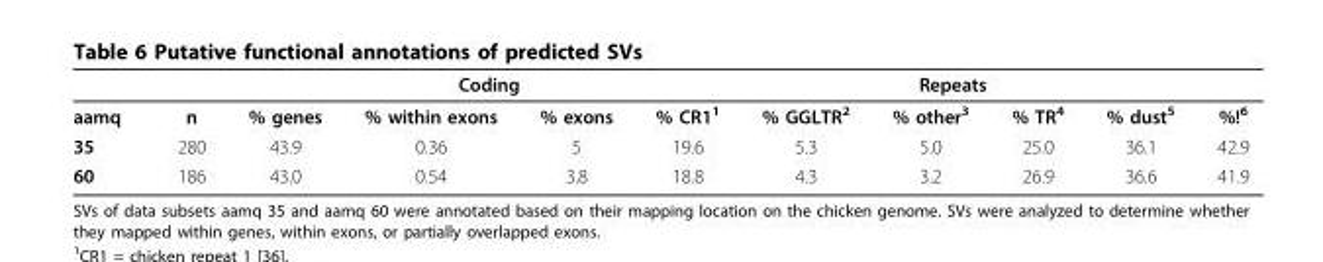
<table><thead><tr><td rowspan="2">aamq</td><td rowspan="2">n</td><td rowspan="2">% genes</td><td colspan="2">Coding</td><td colspan="6">Repeats</td></tr><tr><td>% within exons</td><td>% exons</td><td>% CR1<sup>1</sup></td><td>% GGLTR<sup>2</sup></td><td>% other<sup>3</sup></td><td>% TR<sup>4</sup></td><td>% dust<sup>5</sup></td><td>%!<sup>6</sup></td></tr></thead><tbody><tr><td>35</td><td>280</td><td>43.9</td><td>0.36</td><td>5</td><td>19.6</td><td>5.3</td><td>5.0</td><td>25.0</td><td>36.1</td><td>42.9</td></tr><tr><td>60</td><td>186</td><td>43.0</td><td>0.54</td><td>3.8</td><td>18.8</td><td>4.3</td><td>3.2</td><td>26.9</td><td>36.6</td><td>41.9</td></tr></tbody></table>